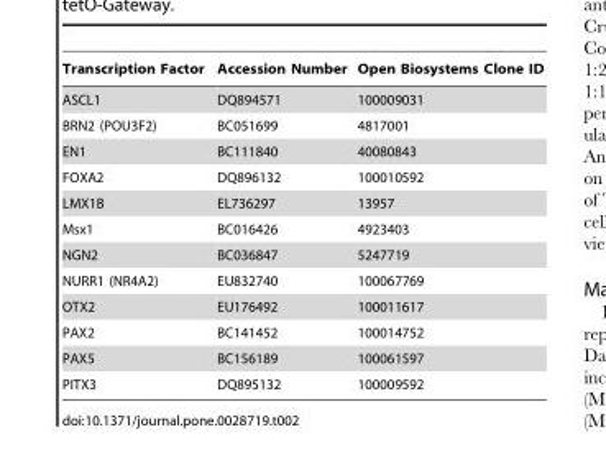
<table><thead><tr><td>Transcription Factor</td><td>Accession Number</td><td>Open Biosystems Clone ID</td></tr></thead><tbody><tr><td>ASCL1</td><td>DQ894571</td><td>100009031</td></tr><tr><td>BRN2 (POU3F2)</td><td>BC051699</td><td>4817001</td></tr><tr><td>EN1</td><td>BC111840</td><td>40080843</td></tr><tr><td>FOXA2</td><td>DQ896132</td><td>100010592</td></tr><tr><td>LMX1B</td><td>EL736297</td><td>13957</td></tr><tr><td>Msx1</td><td>BC016426</td><td>4923403</td></tr><tr><td>NGN2</td><td>BC036847</td><td>5247719</td></tr><tr><td>NURR1 (NR4A2)</td><td>EU832740</td><td>100067769</td></tr><tr><td>OTX2</td><td>EU176492</td><td>100011617</td></tr><tr><td>PAX2</td><td>BC141452</td><td>100014752</td></tr><tr><td>PAX5</td><td>BC156189</td><td>100061597</td></tr><tr><td>PITX3</td><td>DQ895132</td><td>100009592</td></tr></tbody></table>